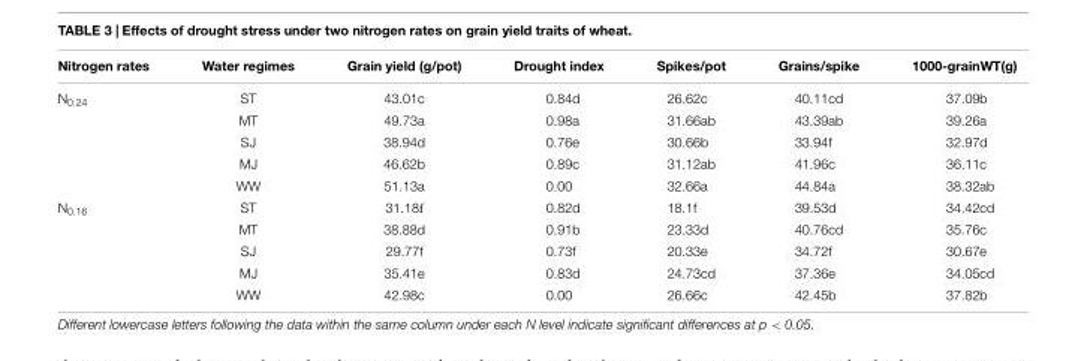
<table><thead><tr><td>Nitrogen rates</td><td>Water regimes</td><td>Grain yield (g/pot)</td><td>Drought index</td><td>Spikes/pot</td><td>Grains/spike</td><td>1000-grainWT(g)</td></tr></thead><tbody><tr><td rowspan="5">N<sub>0.24</sub></td><td>ST</td><td>43.01c</td><td>0.84d</td><td>26.62c</td><td>40.11cd</td><td>37.09b</td></tr><tr><td>MT</td><td>49.73a</td><td>0.98a</td><td>31.66ab</td><td>43.39ab</td><td>39.26a</td></tr><tr><td>SJ</td><td>38.94d</td><td>0.76e</td><td>30.66b</td><td>33.94f</td><td>32.97d</td></tr><tr><td>MJ</td><td>46.62b</td><td>0.89c</td><td>31.12ab</td><td>41.96c</td><td>36.11c</td></tr><tr><td>WW</td><td>51.13a</td><td>0.00</td><td>32.66a</td><td>44.84a</td><td>38.32ab</td></tr><tr><td rowspan="5">N<sub>0.16</sub></td><td>ST</td><td>31.18f</td><td>0.82d</td><td>18.1f</td><td>39.53d</td><td>34.42cd</td></tr><tr><td>MT</td><td>38.88d</td><td>0.91b</td><td>23.33d</td><td>40.76cd</td><td>35.76c</td></tr><tr><td>SJ</td><td>29.77f</td><td>0.73f</td><td>20.33e</td><td>34.72f</td><td>30.67e</td></tr><tr><td>MJ</td><td>35.41e</td><td>0.83d</td><td>24.73cd</td><td>37.36e</td><td>34.05cd</td></tr><tr><td>WW</td><td>42.98c</td><td>0.00</td><td>26.66c</td><td>42.45b</td><td>37.82b</td></tr></tbody></table>